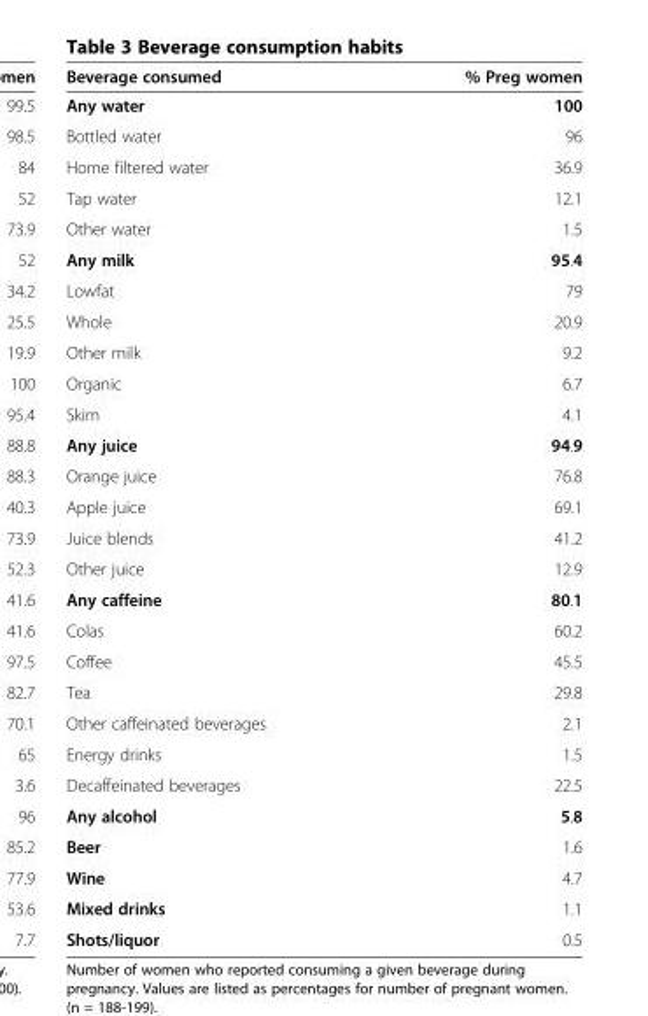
<table><thead><tr><td>Beverage consumed</td><td>% Preg women</td></tr></thead><tbody><tr><td>Any water</td><td>100</td></tr><tr><td>Bottled water</td><td>96</td></tr><tr><td>Home filtered water</td><td>36.9</td></tr><tr><td>Tap water</td><td>12.1</td></tr><tr><td>Other water</td><td>1.5</td></tr><tr><td>Any milk</td><td>95.4</td></tr><tr><td>Lowfat</td><td>79</td></tr><tr><td>Whole</td><td>20.9</td></tr><tr><td>Other milk</td><td>9.2</td></tr><tr><td>Organic</td><td>6.7</td></tr><tr><td>Skim</td><td>4.1</td></tr><tr><td>Any juice</td><td>94.9</td></tr><tr><td>Orange juice</td><td>76.8</td></tr><tr><td>Apple juice</td><td>69.1</td></tr><tr><td>Juice blends</td><td>41.2</td></tr><tr><td>Other juice</td><td>12.9</td></tr><tr><td>Any caffeine</td><td>80.1</td></tr><tr><td>Colas</td><td>60.2</td></tr><tr><td>Coffee</td><td>45.5</td></tr><tr><td>Tea</td><td>29.8</td></tr><tr><td>Other caffeinated beverages</td><td>2.1</td></tr><tr><td>Energy drinks</td><td>1.5</td></tr><tr><td>Decaffeinated beverages</td><td>22.5</td></tr><tr><td>Any alcohol</td><td>5.8</td></tr><tr><td>Beer</td><td>1.6</td></tr><tr><td>Wine</td><td>4.7</td></tr><tr><td>Mixed drinks</td><td>1.1</td></tr><tr><td>Shots/liquor</td><td>0.5</td></tr></tbody></table>